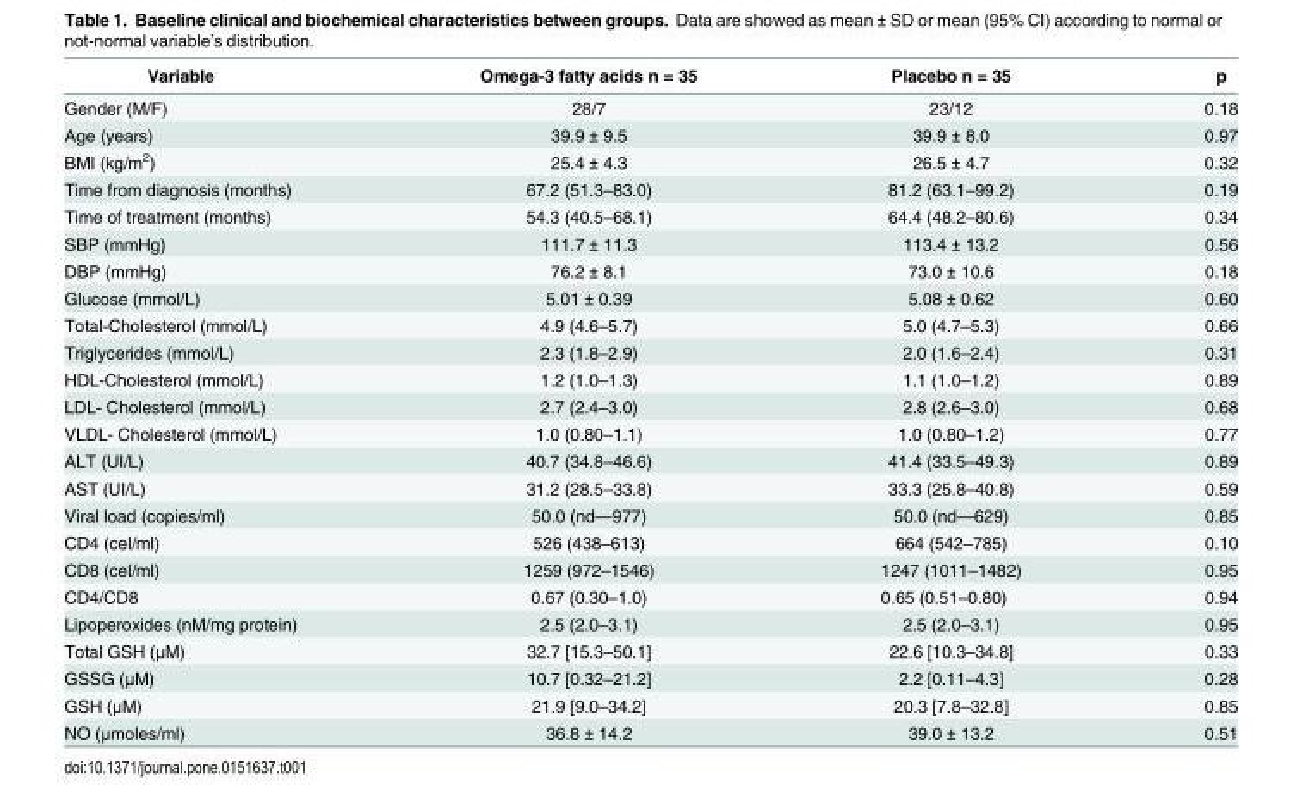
<table><thead><tr><td>Variable</td><td>Omega-3 fatty acids n = 35</td><td>Placebo n = 35</td><td>p</td></tr></thead><tbody><tr><td>Gender (M/F)</td><td>28/7</td><td>23/12</td><td>0.18</td></tr><tr><td>Age (years)</td><td>39.9 ± 9.5</td><td>39.9 ± 8.0</td><td>0.97</td></tr><tr><td>BMI (kg/m<sup>2</sup>)</td><td>25.4 ± 4.3</td><td>26.5 ± 4.7</td><td>0.32</td></tr><tr><td>Time from diagnosis (months)</td><td>67.2 (51.3–83.0)</td><td>81.2 (63.1–99.2)</td><td>0.19</td></tr><tr><td>Time of treatment (months)</td><td>54.3 (40.5–68.1)</td><td>64.4 (48.2–80.6)</td><td>0.34</td></tr><tr><td>SBP (mmHg)</td><td>111.7 ± 11.3</td><td>113.4 ± 13.2</td><td>0.56</td></tr><tr><td>DBP (mmHg)</td><td>76.2 ± 8.1</td><td>73.0 ± 10.6</td><td>0.18</td></tr><tr><td>Glucose (mmol/L)</td><td>5.01 ± 0.39</td><td>5.08 ± 0.62</td><td>0.60</td></tr><tr><td>Total-Cholesterol (mmol/L)</td><td>4.9 (4.6–5.7)</td><td>5.0 (4.7–5.3)</td><td>0.66</td></tr><tr><td>Triglycerides (mmol/L)</td><td>2.3 (1.8–2.9)</td><td>2.0 (1.6–2.4)</td><td>0.31</td></tr><tr><td>HDL-Cholesterol (mmol/L)</td><td>1.2 (1.0–1.3)</td><td>1.1 (1.0–1.2)</td><td>0.89</td></tr><tr><td>LDL- Cholesterol (mmol/L)</td><td>2.7 (2.4–3.0)</td><td>2.8 (2.6–3.0)</td><td>0.68</td></tr><tr><td>VLDL- Cholesterol (mmol/L)</td><td>1.0 (0.80–1.1)</td><td>1.0 (0.80–1.2)</td><td>0.77</td></tr><tr><td>ALT (UI/L)</td><td>40.7 (34.8–46.6)</td><td>41.4 (33.5–49.3)</td><td>0.89</td></tr><tr><td>AST (UI/L)</td><td>31.2 (28.5–33.8)</td><td>33.3 (25.8–40.8)</td><td>0.59</td></tr><tr><td>Viral load (copies/ml)</td><td>50.0 (nd—977)</td><td>50.0 (nd—629)</td><td>0.85</td></tr><tr><td>CD4 (cel/ml)</td><td>526 (438–613)</td><td>664 (542–785)</td><td>0.10</td></tr><tr><td>CD8 (cel/ml)</td><td>1259 (972–1546)</td><td>1247 (1011–1482)</td><td>0.95</td></tr><tr><td>CD4/CD8</td><td>0.67 (0.30–1.0)</td><td>0.65 (0.51–0.80)</td><td>0.94</td></tr><tr><td>Lipoperoxides (nM/mg protein)</td><td>2.5 (2.0–3.1)</td><td>2.5 (2.0–3.1)</td><td>0.95</td></tr><tr><td>Total GSH (μM)</td><td>32.7 [15.3–50.1]</td><td>22.6 [10.3–34.8]</td><td>0.33</td></tr><tr><td>GSSG (μM)</td><td>10.7 [0.32–21.2]</td><td>2.2 [0.11–4.3]</td><td>0.28</td></tr><tr><td>GSH (μM)</td><td>21.9 [9.0–34.2]</td><td>20.3 [7.8–32.8]</td><td>0.85</td></tr><tr><td>NO (μmoles/ml)</td><td>36.8 ± 14.2</td><td>39.0 ± 13.2</td><td>0.51</td></tr></tbody></table>